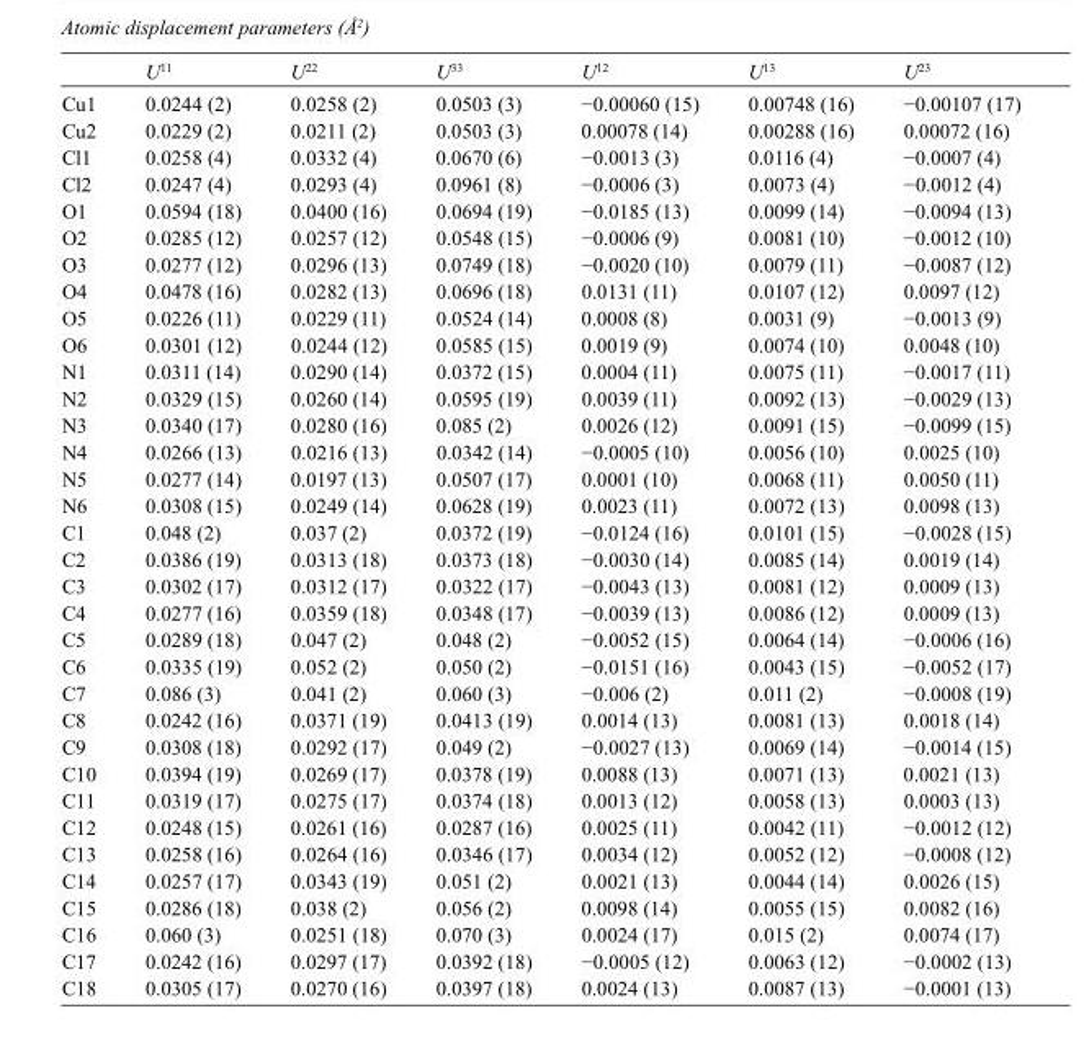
<table><thead><tr><td></td><td>U<sup>11</sup></td><td>U<sup>22</sup></td><td>U<sup>33</sup></td><td>U<sup>12</sup></td><td>U<sup>13</sup></td><td>U<sup>23</sup></td></tr></thead><tbody><tr><td>Cu1</td><td>0.0244 (2)</td><td>0.0258 (2)</td><td>0.0503 (3)</td><td>−0.00060 (15)</td><td>0.00748 (16)</td><td>−0.00107 (17)</td></tr><tr><td>Cu2</td><td>0.0229 (2)</td><td>0.0211 (2)</td><td>0.0503 (3)</td><td>0.00078 (14)</td><td>0.00288 (16)</td><td>0.00072 (16)</td></tr><tr><td>Cl1</td><td>0.0258 (4)</td><td>0.0332 (4)</td><td>0.0670 (6)</td><td>−0.0013 (3)</td><td>0.0116 (4)</td><td>−0.0007 (4)</td></tr><tr><td>Cl2</td><td>0.0247 (4)</td><td>0.0293 (4)</td><td>0.0961 (8)</td><td>−0.0006 (3)</td><td>0.0073 (4)</td><td>−0.0012 (4)</td></tr><tr><td>O1</td><td>0.0594 (18)</td><td>0.0400 (16)</td><td>0.0694 (19)</td><td>−0.0185 (13)</td><td>0.0099 (14)</td><td>−0.0094 (13)</td></tr><tr><td>O2</td><td>0.0285 (12)</td><td>0.0257 (12)</td><td>0.0548 (15)</td><td>−0.0006 (9)</td><td>0.0081 (10)</td><td>−0.0012 (10)</td></tr><tr><td>O3</td><td>0.0277 (12)</td><td>0.0296 (13)</td><td>0.0749 (18)</td><td>−0.0020 (10)</td><td>0.0079 (11)</td><td>−0.0087 (12)</td></tr><tr><td>O4</td><td>0.0478 (16)</td><td>0.0282 (13)</td><td>0.0696 (18)</td><td>0.0131 (11)</td><td>0.0107 (12)</td><td>0.0097 (12)</td></tr><tr><td>O5</td><td>0.0226 (11)</td><td>0.0229 (11)</td><td>0.0524 (14)</td><td>0.0008 (8)</td><td>0.0031 (9)</td><td>−0.0013 (9)</td></tr><tr><td>O6</td><td>0.0301 (12)</td><td>0.0244 (12)</td><td>0.0585 (15)</td><td>0.0019 (9)</td><td>0.0074 (10)</td><td>0.0048 (10)</td></tr><tr><td>N1</td><td>0.0311 (14)</td><td>0.0290 (14)</td><td>0.0372 (15)</td><td>0.0004 (11)</td><td>0.0075 (11)</td><td>−0.0017 (11)</td></tr><tr><td>N2</td><td>0.0329 (15)</td><td>0.0260 (14)</td><td>0.0595 (19)</td><td>0.0039 (11)</td><td>0.0092 (13)</td><td>−0.0029 (13)</td></tr><tr><td>N3</td><td>0.0340 (17)</td><td>0.0280 (16)</td><td>0.085 (2)</td><td>0.0026 (12)</td><td>0.0091 (15)</td><td>−0.0099 (15)</td></tr><tr><td>N4</td><td>0.0266 (13)</td><td>0.0216 (13)</td><td>0.0342 (14)</td><td>−0.0005 (10)</td><td>0.0056 (10)</td><td>0.0025 (10)</td></tr><tr><td>N5</td><td>0.0277 (14)</td><td>0.0197 (13)</td><td>0.0507 (17)</td><td>0.0001 (10)</td><td>0.0068 (11)</td><td>0.0050 (11)</td></tr><tr><td>N6</td><td>0.0308 (15)</td><td>0.0249 (14)</td><td>0.0628 (19)</td><td>0.0023 (11)</td><td>0.0072 (13)</td><td>0.0098 (13)</td></tr><tr><td>C1</td><td>0.048 (2)</td><td>0.037 (2)</td><td>0.0372 (19)</td><td>−0.0124 (16)</td><td>0.0101 (15)</td><td>−0.0028 (15)</td></tr><tr><td>C2</td><td>0.0386 (19)</td><td>0.0313 (18)</td><td>0.0373 (18)</td><td>−0.0030 (14)</td><td>0.0085 (14)</td><td>0.0019 (14)</td></tr><tr><td>C3</td><td>0.0302 (17)</td><td>0.0312 (17)</td><td>0.0322 (17)</td><td>−0.0043 (13)</td><td>0.0081 (12)</td><td>0.0009 (13)</td></tr><tr><td>C4</td><td>0.0277 (16)</td><td>0.0359 (18)</td><td>0.0348 (17)</td><td>−0.0039 (13)</td><td>0.0086 (12)</td><td>0.0009 (13)</td></tr><tr><td>C5</td><td>0.0289 (18)</td><td>0.047 (2)</td><td>0.048 (2)</td><td>−0.0052 (15)</td><td>0.0064 (14)</td><td>−0.0006 (16)</td></tr><tr><td>C6</td><td>0.0335 (19)</td><td>0.052 (2)</td><td>0.050 (2)</td><td>−0.0151 (16)</td><td>0.0043 (15)</td><td>−0.0052 (17)</td></tr><tr><td>C7</td><td>0.086 (3)</td><td>0.041 (2)</td><td>0.060 (3)</td><td>−0.006 (2)</td><td>0.011 (2)</td><td>−0.0008 (19)</td></tr><tr><td>C8</td><td>0.0242 (16)</td><td>0.0371 (19)</td><td>0.0413 (19)</td><td>0.0014 (13)</td><td>0.0081 (13)</td><td>0.0018 (14)</td></tr><tr><td>C9</td><td>0.0308 (18)</td><td>0.0292 (17)</td><td>0.049 (2)</td><td>−0.0027 (13)</td><td>0.0069 (14)</td><td>−0.0014 (15)</td></tr><tr><td>C10</td><td>0.0394 (19)</td><td>0.0269 (17)</td><td>0.0378 (19)</td><td>0.0088 (13)</td><td>0.0071 (13)</td><td>0.0021 (13)</td></tr><tr><td>C11</td><td>0.0319 (17)</td><td>0.0275 (17)</td><td>0.0374 (18)</td><td>0.0013 (12)</td><td>0.0058 (13)</td><td>0.0003 (13)</td></tr><tr><td>C12</td><td>0.0248 (15)</td><td>0.0261 (16)</td><td>0.0287 (16)</td><td>0.0025 (11)</td><td>0.0042 (11)</td><td>−0.0012 (12)</td></tr><tr><td>C13</td><td>0.0258 (16)</td><td>0.0264 (16)</td><td>0.0346 (17)</td><td>0.0034 (12)</td><td>0.0052 (12)</td><td>−0.0008 (12)</td></tr><tr><td>C14</td><td>0.0257 (17)</td><td>0.0343 (19)</td><td>0.051 (2)</td><td>0.0021 (13)</td><td>0.0044 (14)</td><td>0.0026 (15)</td></tr><tr><td>C15</td><td>0.0286 (18)</td><td>0.038 (2)</td><td>0.056 (2)</td><td>0.0098 (14)</td><td>0.0055 (15)</td><td>0.0082 (16)</td></tr><tr><td>C16</td><td>0.060 (3)</td><td>0.0251 (18)</td><td>0.070 (3)</td><td>0.0024 (17)</td><td>0.015 (2)</td><td>0.0074 (17)</td></tr><tr><td>C17</td><td>0.0242 (16)</td><td>0.0297 (17)</td><td>0.0392 (18)</td><td>−0.0005 (12)</td><td>0.0063 (12)</td><td>−0.0002 (13)</td></tr><tr><td>C18</td><td>0.0305 (17)</td><td>0.0270 (16)</td><td>0.0397 (18)</td><td>0.0024 (13)</td><td>0.0087 (13)</td><td>−0.0001 (13)</td></tr></tbody></table>